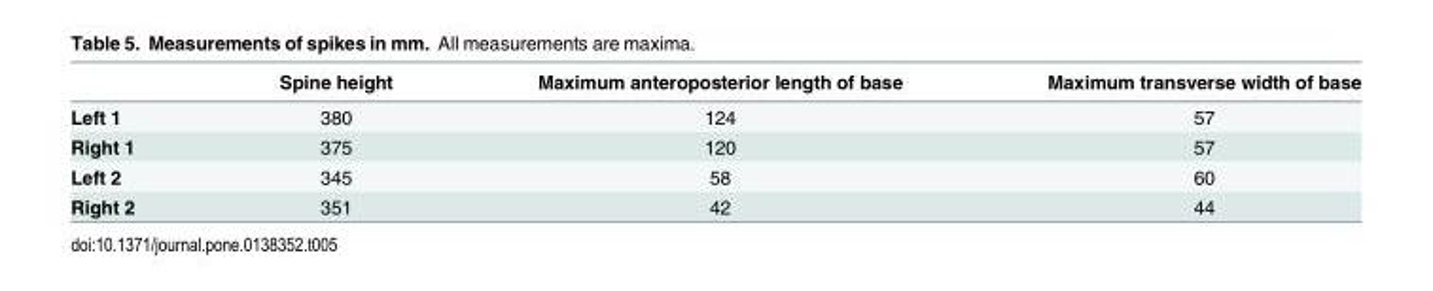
<table><thead><tr><td></td><td>Spine height</td><td>Maximum anteroposterior length of base</td><td>Maximum transverse width of base</td></tr></thead><tbody><tr><td>Left 1</td><td>380</td><td>124</td><td>57</td></tr><tr><td>Right 1</td><td>375</td><td>120</td><td>57</td></tr><tr><td>Left 2</td><td>345</td><td>58</td><td>60</td></tr><tr><td>Right 2</td><td>351</td><td>42</td><td>44</td></tr></tbody></table>